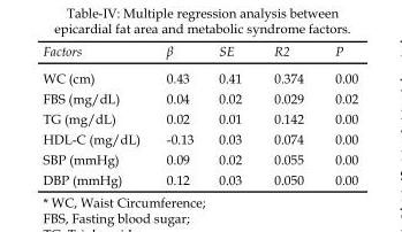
<table><thead><tr><td>Factors</td><td>β</td><td>SE</td><td>R2</td><td>P</td></tr></thead><tbody><tr><td>WC (cm)</td><td>0.43</td><td>0.41</td><td>0.374</td><td>0.00</td></tr><tr><td>FBS (mg/dL)</td><td>0.04</td><td>0.02</td><td>0.029</td><td>0.02</td></tr><tr><td>TG (mg/dL)</td><td>0.02</td><td>0.01</td><td>0.142</td><td>0.00</td></tr><tr><td>HDL-C (mg/dL)</td><td>-0.13</td><td>0.03</td><td>0.074</td><td>0.00</td></tr><tr><td>SBP (mmHg)</td><td>0.09</td><td>0.02</td><td>0.055</td><td>0.00</td></tr><tr><td>DBP (mmHg)</td><td>0.12</td><td>0.03</td><td>0.050</td><td>0.00</td></tr></tbody></table>